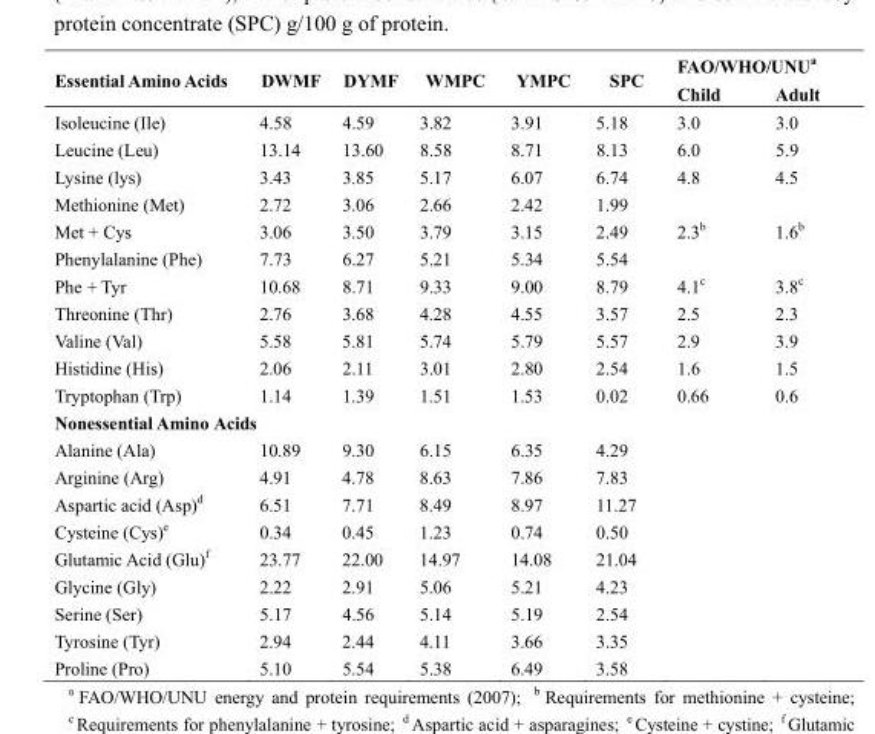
<table><thead><tr><td rowspan="2">Essential Amino Acids</td><td rowspan="2">DWMF</td><td rowspan="2">DYMF</td><td rowspan="2">WMPC</td><td rowspan="2">YMPC</td><td rowspan="2">SPC</td><td colspan="2">FAO/WHO/UNU<sup>a</sup></td></tr><tr><td>Child</td><td>Adult</td></tr></thead><tbody><tr><td>Isoleucine (Ile)</td><td>4.58</td><td>4.59</td><td>3.82</td><td>3.91</td><td>5.18</td><td>3.0</td><td>3.0</td></tr><tr><td>Leucine (Leu)</td><td>13.14</td><td>13.60</td><td>8.58</td><td>8.71</td><td>8.13</td><td>6.0</td><td>5.9</td></tr><tr><td>Lysine (lys)</td><td>3.43</td><td>3.85</td><td>5.17</td><td>6.07</td><td>6.74</td><td>4.8</td><td>4.5</td></tr><tr><td>Methionine (Met)</td><td>2.72</td><td>3.06</td><td>2.66</td><td>2.42</td><td>1.99</td><td></td><td></td></tr><tr><td>Met + Cys</td><td>3.06</td><td>3.50</td><td>3.79</td><td>3.15</td><td>2.49</td><td>2.3<sup>b</sup></td><td>1.6<sup>b</sup></td></tr><tr><td>Phenylalanine (Phe)</td><td>7.73</td><td>6.27</td><td>5.21</td><td>5.34</td><td>5.54</td><td></td><td></td></tr><tr><td>Phe + Tyr</td><td>10.68</td><td>8.71</td><td>9.33</td><td>9.00</td><td>8.79</td><td>4.1<sup>c</sup></td><td>3.8<sup>c</sup></td></tr><tr><td>Threonine (Thr)</td><td>2.76</td><td>3.68</td><td>4.28</td><td>4.55</td><td>3.57</td><td>2.5</td><td>2.3</td></tr><tr><td>Valine (Val)</td><td>5.58</td><td>5.81</td><td>5.74</td><td>5.79</td><td>5.57</td><td>2.9</td><td>3.9</td></tr><tr><td>Histidine (His)</td><td>2.06</td><td>2.11</td><td>3.01</td><td>2.80</td><td>2.54</td><td>1.6</td><td>1.5</td></tr><tr><td>Tryptophan (Trp)</td><td>1.14</td><td>1.39</td><td>1.51</td><td>1.53</td><td>0.02</td><td>0.66</td><td>0.6</td></tr><tr><td colspan="8">Nonessential Amino Acids</td></tr><tr><td>Alanine (Ala)</td><td>10.89</td><td>9.30</td><td>6.15</td><td>6.35</td><td>4.29</td><td></td><td></td></tr><tr><td>Arginine (Arg)</td><td>4.91</td><td>4.78</td><td>8.63</td><td>7.86</td><td>7.83</td><td></td><td></td></tr><tr><td>Aspartic acid (Asp)<sup>d</sup></td><td>6.51</td><td>7.71</td><td>8.49</td><td>8.97</td><td>11.27</td><td></td><td></td></tr><tr><td>Cysteine (Cys)<sup>e</sup></td><td>0.34</td><td>0.45</td><td>1.23</td><td>0.74</td><td>0.50</td><td></td><td></td></tr><tr><td>Glutamic Acid (Glu)<sup>f</sup></td><td>23.77</td><td>22.00</td><td>14.97</td><td>14.08</td><td>21.04</td><td></td><td></td></tr><tr><td>Glycine (Gly)</td><td>2.22</td><td>2.91</td><td>5.06</td><td>5.21</td><td>4.23</td><td></td><td></td></tr><tr><td>Serine (Ser)</td><td>5.17</td><td>4.56</td><td>5.14</td><td>5.19</td><td>2.54</td><td></td><td></td></tr><tr><td>Tyrosine (Tyr)</td><td>2.94</td><td>2.44</td><td>4.11</td><td>3.66</td><td>3.35</td><td></td><td></td></tr><tr><td>Proline (Pro)</td><td>5.10</td><td>5.54</td><td>5.38</td><td>6.49</td><td>3.58</td><td></td><td></td></tr></tbody></table>